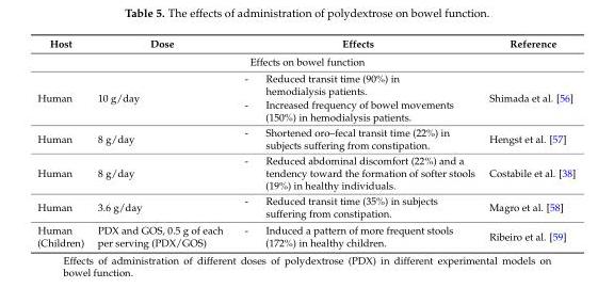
<table><thead><tr><td>Host</td><td>Dose</td><td>Effects</td><td>Reference</td></tr></thead><tbody><tr><td colspan="4">Effects on bowel function</td></tr><tr><td>Human</td><td>10 g/day</td><td>- Reduced transit time (90%) in hemodialysis patients. - Increased frequency of bowel movements (150%) in hemodialysis patients.</td><td>Shimada et al. [56]</td></tr><tr><td>Human</td><td>8 g/day</td><td>- Shortened oro–fecal transit time (22%) in subjects suffering from constipation.</td><td>Hengst et al. [57]</td></tr><tr><td>Human</td><td>8 g/day</td><td>- Reduced abdominal discomfort (22%) and a tendency toward the formation of softer stools (19%) in healthy individuals.</td><td>Costabile et al. [38]</td></tr><tr><td>Human</td><td>3.6 g/day</td><td>- Reduced transit time (35%) in subjects suffering from constipation.</td><td>Magro et al. [58]</td></tr><tr><td>Human (Children)</td><td>PDX and GOS, 0.5 g of each per serving (PDX/GOS)</td><td>- Induced a pattern of more frequent stools (172%) in healthy children.</td><td>Ribeiro et al. [59]</td></tr></tbody></table>